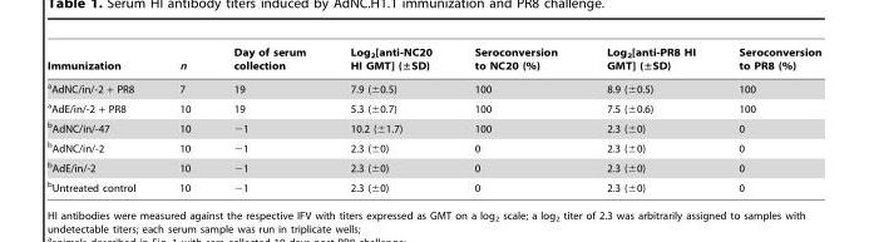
<table><thead><tr><td>Immunization</td><td>n</td><td>Day of serum collection</td><td>Log<sub>2</sub>[anti-NC20 HI GMT] (±SD)</td><td>Seroconversion to NC20 (%)</td><td>Log<sub>2</sub>[anti-PR8 HI GMT] (±SD)</td><td>Seroconversion to PR8 (%)</td></tr></thead><tbody><tr><td>aAdNC/in/-2 + PR8</td><td>7</td><td>19</td><td>7.9 (±0.5)</td><td>100</td><td>8.9 (±0.5)</td><td>100</td></tr><tr><td>aAdE/in/-2 + PR8</td><td>10</td><td>19</td><td>5.3 (±0.7)</td><td>100</td><td>7.5 (±0.6)</td><td>100</td></tr><tr><td>bAdNC/in/-47</td><td>10</td><td>−1</td><td>10.2 (±1.7)</td><td>100</td><td>2.3 (±0)</td><td>0</td></tr><tr><td>bAdNC/in/-2</td><td>10</td><td>−1</td><td>2.3 (±0)</td><td>0</td><td>2.3 (±0)</td><td>0</td></tr><tr><td>bAdE/in/-2</td><td>10</td><td>−1</td><td>2.3 (±0)</td><td>0</td><td>2.3 (±0)</td><td>0</td></tr><tr><td>bUntreated control</td><td>10</td><td>−1</td><td>2.3 (±0)</td><td>0</td><td>2.3 (±0)</td><td>0</td></tr></tbody></table>